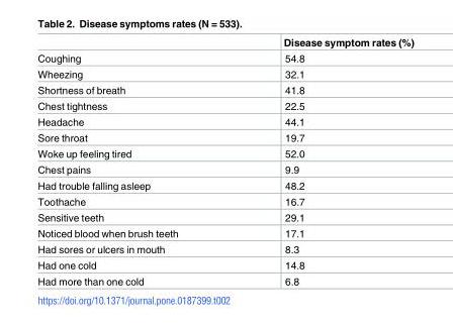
<table><thead><tr><td></td><td>Disease symptom rates (%)</td></tr></thead><tbody><tr><td>Coughing</td><td>54.8</td></tr><tr><td>Wheezing</td><td>32.1</td></tr><tr><td>Shortness of breath</td><td>41.8</td></tr><tr><td>Chest tightness</td><td>22.5</td></tr><tr><td>Headache</td><td>44.1</td></tr><tr><td>Sore throat</td><td>19.7</td></tr><tr><td>Woke up feeling tired</td><td>52.0</td></tr><tr><td>Chest pains</td><td>9.9</td></tr><tr><td>Had trouble falling asleep</td><td>48.2</td></tr><tr><td>Toothache</td><td>16.7</td></tr><tr><td>Sensitive teeth</td><td>29.1</td></tr><tr><td>Noticed blood when brush teeth</td><td>17.1</td></tr><tr><td>Had sores or ulcers in mouth</td><td>8.3</td></tr><tr><td>Had one cold</td><td>14.8</td></tr><tr><td>Had more than one cold</td><td>6.8</td></tr></tbody></table>